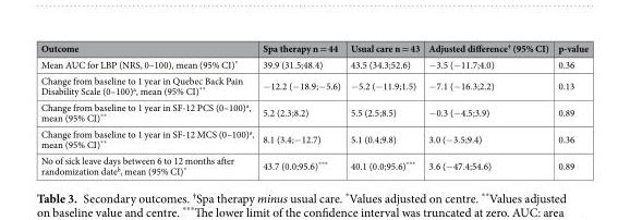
<table><thead><tr><td>Outcome</td><td>Spa therapy n = 44</td><td>Usual care n = 43</td><td>Adjusted difference<sup>†</sup> (95% CI)</td><td>p-value</td></tr></thead><tbody><tr><td>Mean AUC for LBP (NRS, 0–100), mean (95% CI)*</td><td>39.9 (31.5;48.4)</td><td>43.5 (34.3;52.6)</td><td>−3.5 (−11.7;4.0)</td><td>0.36</td></tr><tr><td>Change from baseline to 1 year in Quebec Back Pain Disability Scale (0–100)<sup>a</sup>, mean (95% CI)**</td><td>−12.2 (−18.9;−5.6)</td><td>−5.2 (−11.9;1.5)</td><td>−7.1 (−16.3;2.2)</td><td>0.13</td></tr><tr><td>Change from baseline to 1 year in SF-12 PCS (0–100)<sup>a</sup>, mean (95% CI)**</td><td>5.2 (2.3;8.2)</td><td>5.5 (2.5;8.5)</td><td>−0.3 (−4.5;3.9)</td><td>0.89</td></tr><tr><td>Change from baseline to 1 year in SF-12 MCS (0–100)<sup>a</sup>, mean (95% CI)**</td><td>8.1 (3.4;−12.7)</td><td>5.1 (0.4;9.8)</td><td>3.0 (−3.5;9.4)</td><td>0.36</td></tr><tr><td>No of sick leave days between 6 to 12 months after randomization date<sup>b</sup>, mean (95% CI)*</td><td>43.7 (0.0;95.6)***</td><td>40.1 (0.0;95.6)***</td><td>3.6 (−47.4;54.6)</td><td>0.89</td></tr></tbody></table>